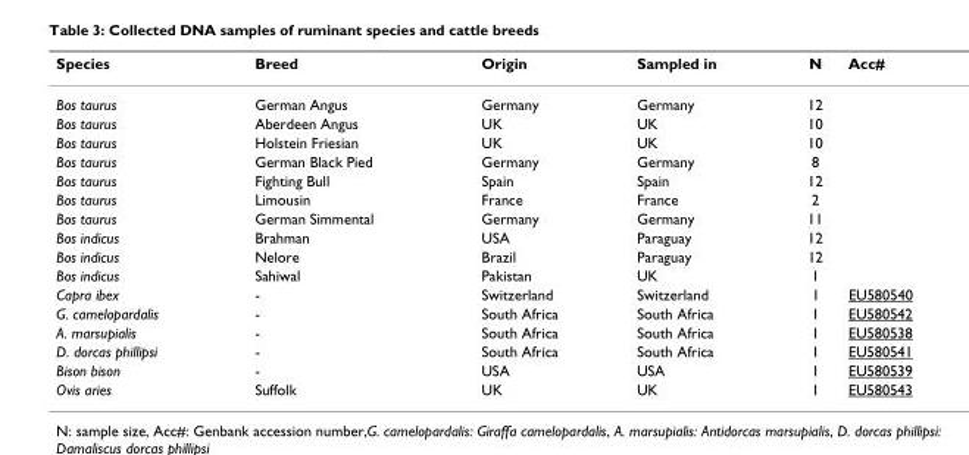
<table><thead><tr><td>Species</td><td>Breed</td><td>Origin</td><td>Sampled in</td><td>N</td><td>Acc#</td></tr></thead><tbody><tr><td>Bos taurus</td><td>German Angus</td><td>Germany</td><td>Germany</td><td>12</td><td></td></tr><tr><td>Bos taurus</td><td>Aberdeen Angus</td><td>UK</td><td>UK</td><td>10</td><td></td></tr><tr><td>Bos taurus</td><td>Holstein Friesian</td><td>UK</td><td>UK</td><td>10</td><td></td></tr><tr><td>Bos taurus</td><td>German Black Pied</td><td>Germany</td><td>Germany</td><td>8</td><td></td></tr><tr><td>Bos taurus</td><td>Fighting Bull</td><td>Spain</td><td>Spain</td><td>12</td><td></td></tr><tr><td>Bos taurus</td><td>Limousin</td><td>France</td><td>France</td><td>2</td><td></td></tr><tr><td>Bos taurus</td><td>German Simmental</td><td>Germany</td><td>Germany</td><td>11</td><td></td></tr><tr><td>Bos indicus</td><td>Brahman</td><td>USA</td><td>Paraguay</td><td>12</td><td></td></tr><tr><td>Bos indicus</td><td>Nelore</td><td>Brazil</td><td>Paraguay</td><td>12</td><td></td></tr><tr><td>Bos indicus</td><td>Sahiwal</td><td>Pakistan</td><td>UK</td><td>1</td><td></td></tr><tr><td>Capra ibex</td><td>-</td><td>Switzerland</td><td>Switzerland</td><td>1</td><td>EU580540</td></tr><tr><td>G. camelopardalis</td><td>-</td><td>South Africa</td><td>South Africa</td><td>1</td><td>EU580542</td></tr><tr><td>A. marsupialis</td><td>-</td><td>South Africa</td><td>South Africa</td><td>1</td><td>EU580538</td></tr><tr><td>D. dorcas phillipsi</td><td>-</td><td>South Africa</td><td>South Africa</td><td>1</td><td>EU580541</td></tr><tr><td>Bison bison</td><td>-</td><td>USA</td><td>USA</td><td>1</td><td>EU580539</td></tr><tr><td>Ovis aries</td><td>Suffolk</td><td>UK</td><td>UK</td><td>1</td><td>EU580543</td></tr></tbody></table>